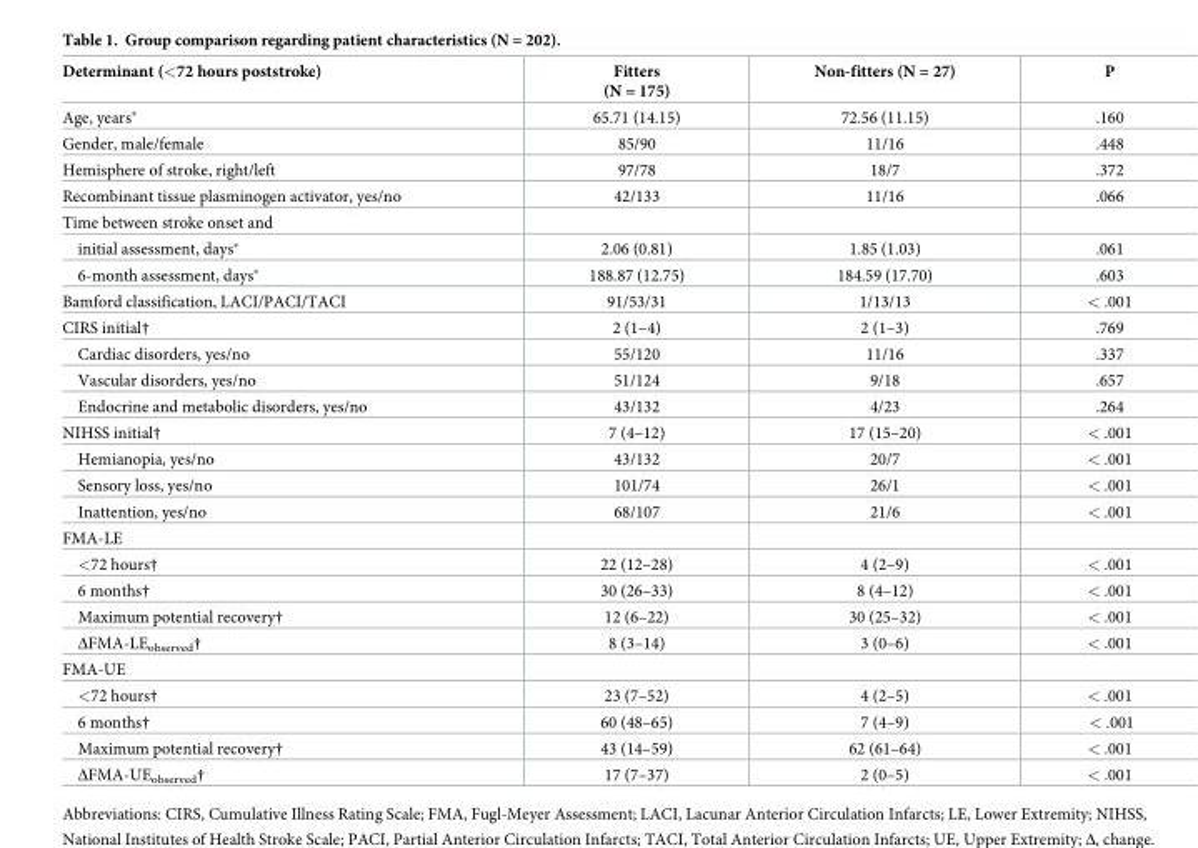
<table><thead><tr><td>Determinant (&lt;72 hours poststroke)</td><td>Fitters (N = 175)</td><td>Non-fitters (N = 27)</td><td>P</td></tr></thead><tbody><tr><td>Age, years*</td><td>65.71 (14.15)</td><td>72.56 (11.15)</td><td>.160</td></tr><tr><td>Gender, male/female</td><td>85/90</td><td>11/16</td><td>.448</td></tr><tr><td>Hemisphere of stroke, right/left</td><td>97/78</td><td>18/7</td><td>.372</td></tr><tr><td>Recombinant tissue plasminogen activator, yes/no</td><td>42/133</td><td>11/16</td><td>.066</td></tr><tr><td colspan="4">Time between stroke onset and</td></tr><tr><td>initial assessment, days*</td><td>2.06 (0.81)</td><td>1.85 (1.03)</td><td>.061</td></tr><tr><td>6-month assessment, days*</td><td>188.87 (12.75)</td><td>184.59 (17.70)</td><td>.603</td></tr><tr><td>Bamford classification, LACI/PACI/TACI</td><td>91/53/31</td><td>1/13/13</td><td>&lt; .001</td></tr><tr><td>CIRS initial†</td><td>2 (1–4)</td><td>2 (1–3)</td><td>.769</td></tr><tr><td>Cardiac disorders, yes/no</td><td>55/120</td><td>11/16</td><td>.337</td></tr><tr><td>Vascular disorders, yes/no</td><td>51/124</td><td>9/18</td><td>.657</td></tr><tr><td>Endocrine and metabolic disorders, yes/no</td><td>43/132</td><td>4/23</td><td>.264</td></tr><tr><td>NIHSS initial†</td><td>7 (4–12)</td><td>17 (15–20)</td><td>&lt; .001</td></tr><tr><td>Hemianopia, yes/no</td><td>43/132</td><td>20/7</td><td>&lt; .001</td></tr><tr><td>Sensory loss, yes/no</td><td>101/74</td><td>26/1</td><td>&lt; .001</td></tr><tr><td>Inattention, yes/no</td><td>68/107</td><td>21/6</td><td>&lt; .001</td></tr><tr><td colspan="4">FMA-LE</td></tr><tr><td>&lt;72 hours†</td><td>22 (12–28)</td><td>4 (2–9)</td><td>&lt; .001</td></tr><tr><td>6 months†</td><td>30 (26–33)</td><td>8 (4–12)</td><td>&lt; .001</td></tr><tr><td>Maximum potential recovery†</td><td>12 (6–22)</td><td>30 (25–32)</td><td>&lt; .001</td></tr><tr><td>ΔFMA-LE<sub>observed</sub>†</td><td>8 (3–14)</td><td>3 (0–6)</td><td>&lt; .001</td></tr><tr><td colspan="4">FMA-UE</td></tr><tr><td>&lt;72 hours†</td><td>23 (7–52)</td><td>4 (2–5)</td><td>&lt; .001</td></tr><tr><td>6 months†</td><td>60 (48–65)</td><td>7 (4–9)</td><td>&lt; .001</td></tr><tr><td>Maximum potential recovery†</td><td>43 (14–59)</td><td>62 (61–64)</td><td>&lt; .001</td></tr><tr><td>ΔFMA-UE<sub>observed</sub>†</td><td>17 (7–37)</td><td>2 (0–5)</td><td>&lt; .001</td></tr></tbody></table>